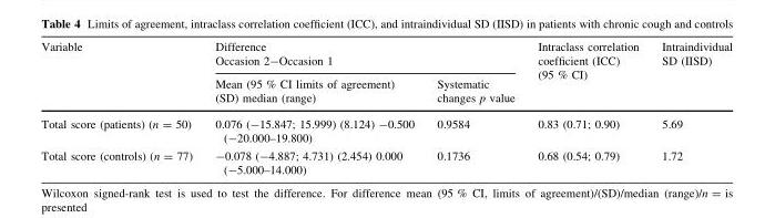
<table><thead><tr><td rowspan="2">Variable</td><td colspan="2">Difference Occasion 2-Occasion 1</td><td rowspan="2">Intraclass correlation coefficient (ICC) (95 % CI)</td><td rowspan="2">Intraindividual SD (IISD)</td></tr><tr><td>Mean (95 % CI limits of agreement) (SD) median (range)</td><td>Systematic changes p value</td></tr></thead><tbody><tr><td>Total score (patients) (n = 50)</td><td>0.076 (-15.847; 15.999) (8.124) -0.500 (-20.000–19.800)</td><td>0.9584</td><td>0.83 (0.71; 0.90)</td><td>5.69</td></tr><tr><td>Total score (controls) (n = 77)</td><td>-0.078 (-4.887; 4.731) (2.454) 0.000 (-5.000–14.000)</td><td>0.1736</td><td>0.68 (0.54; 0.79)</td><td>1.72</td></tr></tbody></table>